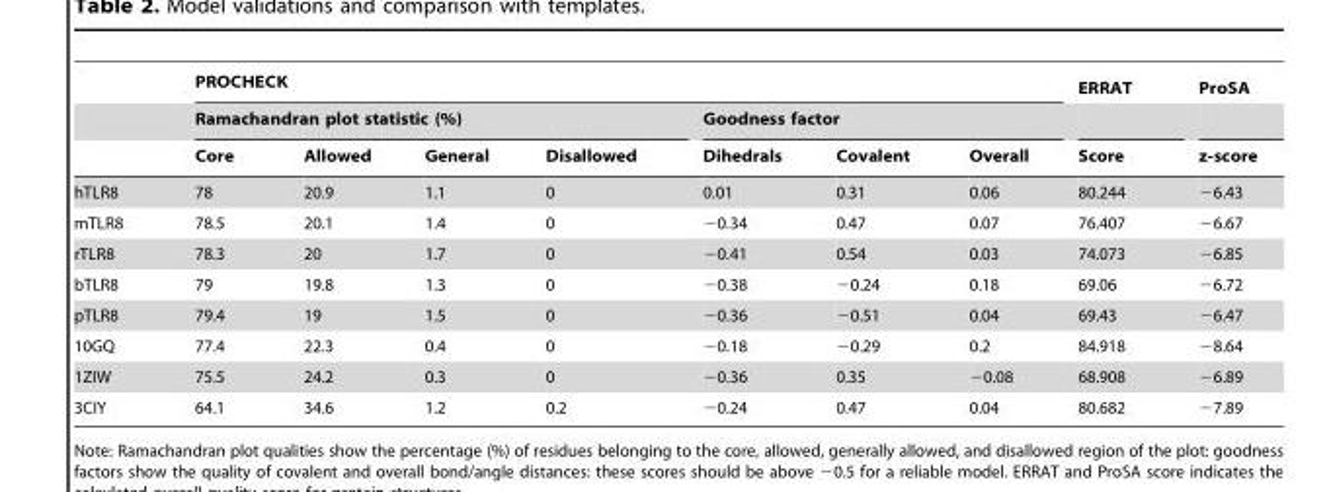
<table><thead><tr><td rowspan="3"></td><td colspan="7">PROCHECK</td><td rowspan="3">ERRAT Score</td><td rowspan="3">ProSA z-score</td></tr><tr><td colspan="4">Ramachandran plot statistic (%)</td><td colspan="3">Goodness factor</td></tr><tr><td>Core</td><td>Allowed</td><td>General</td><td>Disallowed</td><td>Dihedrals</td><td>Covalent</td><td>Overall</td></tr></thead><tbody><tr><td>hTLR8</td><td>78</td><td>20.9</td><td>1.1</td><td>0</td><td>0.01</td><td>0.31</td><td>0.06</td><td>80.244</td><td>−6.43</td></tr><tr><td>mTLR8</td><td>78.5</td><td>20.1</td><td>1.4</td><td>0</td><td>−0.34</td><td>0.47</td><td>0.07</td><td>76.407</td><td>−6.67</td></tr><tr><td>rTLR8</td><td>78.3</td><td>20</td><td>1.7</td><td>0</td><td>−0.41</td><td>0.54</td><td>0.03</td><td>74.073</td><td>−6.85</td></tr><tr><td>bTLR8</td><td>79</td><td>19.8</td><td>1.3</td><td>0</td><td>−0.38</td><td>−0.24</td><td>0.18</td><td>69.06</td><td>−6.72</td></tr><tr><td>pTLR8</td><td>79.4</td><td>19</td><td>1.5</td><td>0</td><td>−0.36</td><td>−0.51</td><td>0.04</td><td>69.43</td><td>−6.47</td></tr><tr><td>10GQ</td><td>77.4</td><td>22.3</td><td>0.4</td><td>0</td><td>−0.18</td><td>−0.29</td><td>0.2</td><td>84.918</td><td>−8.64</td></tr><tr><td>1ZIW</td><td>75.5</td><td>24.2</td><td>0.3</td><td>0</td><td>−0.36</td><td>0.35</td><td>−0.08</td><td>68.908</td><td>−6.89</td></tr><tr><td>3CIY</td><td>64.1</td><td>34.6</td><td>1.2</td><td>0.2</td><td>−0.24</td><td>0.47</td><td>0.04</td><td>80.682</td><td>−7.89</td></tr></tbody></table>